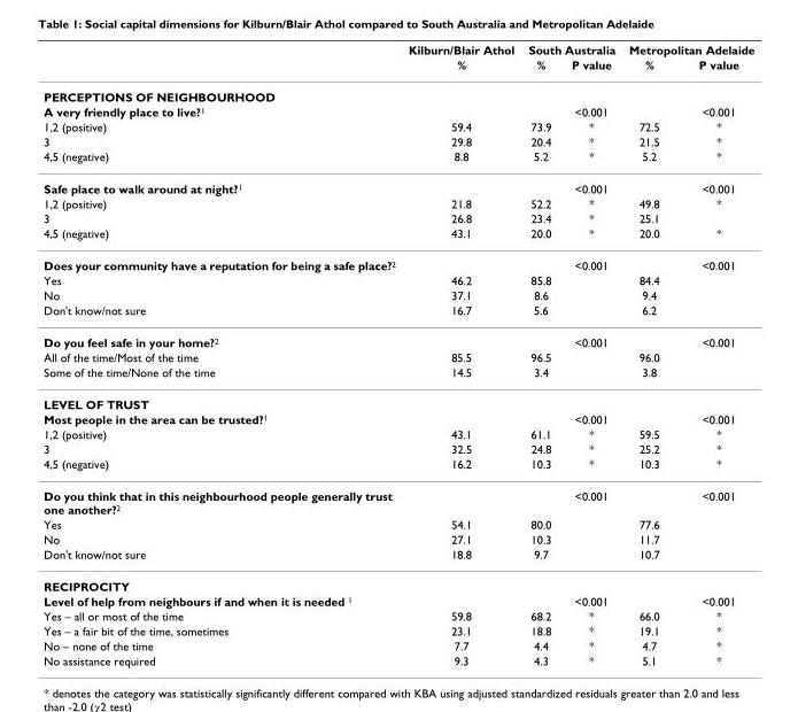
<table><thead><tr><td rowspan="2"></td><td rowspan="2">Kilburn/Blair Athol %</td><td colspan="2">South Australia</td><td colspan="2">Metropolitan Adelaide</td></tr><tr><td>%</td><td>P value</td><td>%</td><td>P value</td></tr></thead><tbody><tr><td colspan="6">PERCEPTIONS OF NEIGHBOURHOOD</td></tr><tr><td>A very friendly place to live?1</td><td></td><td></td><td>&lt;0.001</td><td></td><td>&lt;0.001</td></tr><tr><td>1,2 (positive)</td><td>59.4</td><td>73.9</td><td>*</td><td>72.5</td><td>*</td></tr><tr><td>3</td><td>29.8</td><td>20.4</td><td>*</td><td>21.5</td><td>*</td></tr><tr><td>4,5 (negative)</td><td>8.8</td><td>5.2</td><td>*</td><td>5.2</td><td>*</td></tr><tr><td>Safe place to walk around at night?1</td><td></td><td></td><td>&lt;0.001</td><td></td><td>&lt;0.001</td></tr><tr><td>1,2 (positive)</td><td>21.8</td><td>52.2</td><td>*</td><td>49.8</td><td>*</td></tr><tr><td>3</td><td>26.8</td><td>23.4</td><td>*</td><td>25.1</td><td></td></tr><tr><td>4,5 (negative)</td><td>43.1</td><td>20.0</td><td>*</td><td>20.0</td><td>*</td></tr><tr><td>Does your community have a reputation for being a safe place?2</td><td></td><td></td><td>&lt;0.001</td><td></td><td>&lt;0.001</td></tr><tr><td>Yes</td><td>46.2</td><td>85.8</td><td></td><td>84.4</td><td></td></tr><tr><td>No</td><td>37.1</td><td>8.6</td><td></td><td>9.4</td><td></td></tr><tr><td>Don&#x27;t know/not sure</td><td>16.7</td><td>5.6</td><td></td><td>6.2</td><td></td></tr><tr><td>Do you feel safe in your home?2</td><td></td><td></td><td>&lt;0.001</td><td></td><td>&lt;0.001</td></tr><tr><td>All of the time/Most of the time</td><td>85.5</td><td>96.5</td><td></td><td>96.0</td><td></td></tr><tr><td>Some of the time/None of the time</td><td>14.5</td><td>3.4</td><td></td><td>3.8</td><td></td></tr><tr><td colspan="6">LEVEL OF TRUST</td></tr><tr><td>Most people in the area can be trusted?1</td><td></td><td></td><td>&lt;0.001</td><td></td><td>&lt;0.001</td></tr><tr><td>1,2 (positive)</td><td>43.1</td><td>61.1</td><td>*</td><td>59.5</td><td>*</td></tr><tr><td>3</td><td>32.5</td><td>24.8</td><td>*</td><td>25.2</td><td>*</td></tr><tr><td>4,5 (negative)</td><td>16.2</td><td>10.3</td><td>*</td><td>10.3</td><td>*</td></tr><tr><td>Do you think that in this neighbourhood people generally trust one another?2</td><td></td><td></td><td>&lt;0.001</td><td></td><td>&lt;0.001</td></tr><tr><td>Yes</td><td>54.1</td><td>80.0</td><td></td><td>77.6</td><td></td></tr><tr><td>No</td><td>27.1</td><td>10.3</td><td></td><td>11.7</td><td></td></tr><tr><td>Don&#x27;t know/not sure</td><td>18.8</td><td>9.7</td><td></td><td>10.7</td><td></td></tr><tr><td colspan="6">RECIPROCITY</td></tr><tr><td>Level of help from neighbours if and when it is needed 1</td><td></td><td></td><td>&lt;0.001</td><td></td><td>&lt;0.001</td></tr><tr><td>Yes – all or most of the time</td><td>59.8</td><td>68.2</td><td>*</td><td>66.0</td><td>*</td></tr><tr><td>Yes – a fair bit of the time, sometimes</td><td>23.1</td><td>18.8</td><td>*</td><td>19.1</td><td>*</td></tr><tr><td>No – none of the time</td><td>7.7</td><td>4.4</td><td>*</td><td>4.7</td><td>*</td></tr><tr><td>No assistance required</td><td>9.3</td><td>4.3</td><td>*</td><td>5.1</td><td>*</td></tr></tbody></table>